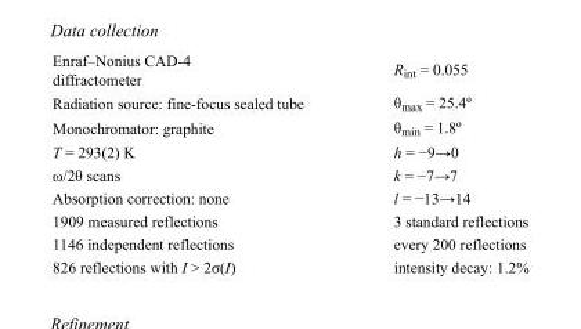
<table><tbody><tr><td>Enraf–Nonius CAD-4 diffractometer</td><td>R<sub>int</sub> = 0.055</td></tr><tr><td>Radiation source: fine-focus sealed tube</td><td>θ<sub>max</sub> = 25.4º</td></tr><tr><td>Monochromator: graphite</td><td>θ<sub>min</sub> = 1.8º</td></tr><tr><td>T = 293(2) K</td><td>h = −9→0</td></tr><tr><td>ω/2θ scans</td><td>k = −7→7</td></tr><tr><td>Absorption correction: none</td><td>l = −13→14</td></tr><tr><td>1909 measured reflections</td><td>3 standard reflections</td></tr><tr><td>1146 independent reflections</td><td>every 200 reflections</td></tr><tr><td>826 reflections with I &gt; 2σ(I)</td><td>intensity decay: 1.2%</td></tr></tbody></table>